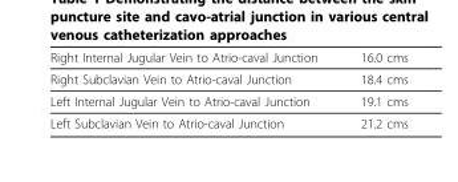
<table><thead><tr><td>Right Internal Jugular Vein to Atrio-caval Junction</td><td>16.0 cms</td></tr></thead><tbody><tr><td>Right Subclavian Vein to Atrio-caval Junction</td><td>18.4 cms</td></tr><tr><td>Left Internal Jugular Vein to Atrio-caval Junction</td><td>19.1 cms</td></tr><tr><td>Left Subclavian Vein to Atrio-caval Junction</td><td>21.2 cms</td></tr></tbody></table>